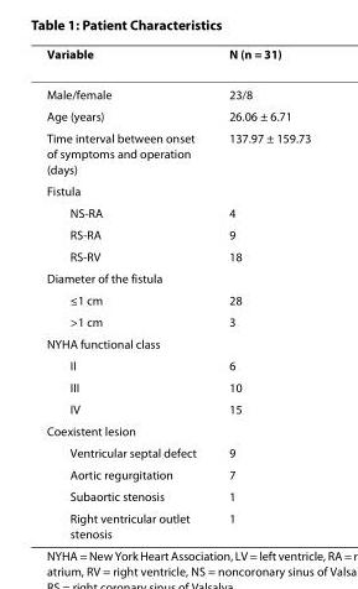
<table><thead><tr><td>Variable</td><td>N (n = 31)</td></tr></thead><tbody><tr><td>Male/female</td><td>23/8</td></tr><tr><td>Age (years)</td><td>26.06 ± 6.71</td></tr><tr><td>Time interval between onset of symptoms and operation (days)</td><td>137.97 ± 159.73</td></tr><tr><td colspan="2">Fistula</td></tr><tr><td>NS-RA</td><td>4</td></tr><tr><td>RS-RA</td><td>9</td></tr><tr><td>RS-RV</td><td>18</td></tr><tr><td colspan="2">Diameter of the fistula</td></tr><tr><td>≤1 cm</td><td>28</td></tr><tr><td>&gt;1 cm</td><td>3</td></tr><tr><td colspan="2">NYHA functional class</td></tr><tr><td>II</td><td>6</td></tr><tr><td>III</td><td>10</td></tr><tr><td>IV</td><td>15</td></tr><tr><td colspan="2">Coexistent lesion</td></tr><tr><td>Ventricular septal defect</td><td>9</td></tr><tr><td>Aortic regurgitation</td><td>7</td></tr><tr><td>Subaortic stenosis</td><td>1</td></tr><tr><td>Right ventricular outlet stenosis</td><td>1</td></tr></tbody></table>